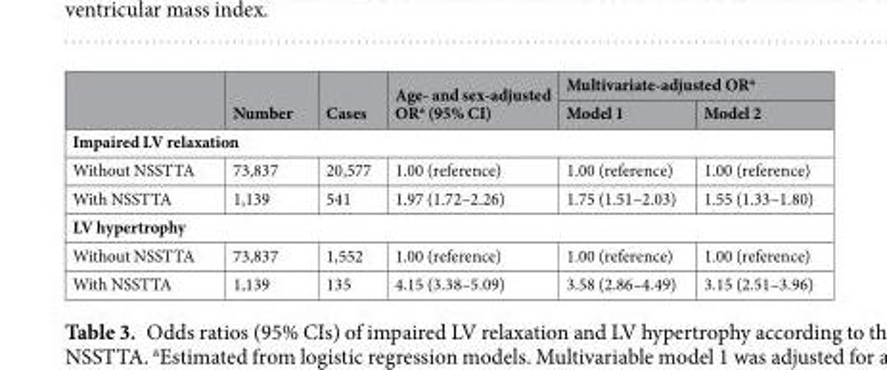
<table><thead><tr><td rowspan="2"></td><td rowspan="2">Number</td><td rowspan="2">Cases</td><td rowspan="2">Age- and sex-adjusted OR<sup>a</sup> (95% CI)</td><td colspan="2">Multivariate-adjusted OR<sup>a</sup></td></tr><tr><td>Model 1</td><td>Model 2</td></tr></thead><tbody><tr><td colspan="6">Impaired LV relaxation</td></tr><tr><td>Without NSSTTA</td><td>73,837</td><td>20,577</td><td>1.00 (reference)</td><td>1.00 (reference)</td><td>1.00 (reference)</td></tr><tr><td>With NSSTTA</td><td>1,139</td><td>541</td><td>1.97 (1.72–2.26)</td><td>1.75 (1.51–2.03)</td><td>1.55 (1.33–1.80)</td></tr><tr><td colspan="6">LV hypertrophy</td></tr><tr><td>Without NSSTTA</td><td>73,837</td><td>1,552</td><td>1.00 (reference)</td><td>1.00 (reference)</td><td>1.00 (reference)</td></tr><tr><td>With NSSTTA</td><td>1,139</td><td>135</td><td>4.15 (3.38–5.09)</td><td>3.58 (2.86–4.49)</td><td>3.15 (2.51–3.96)</td></tr></tbody></table>